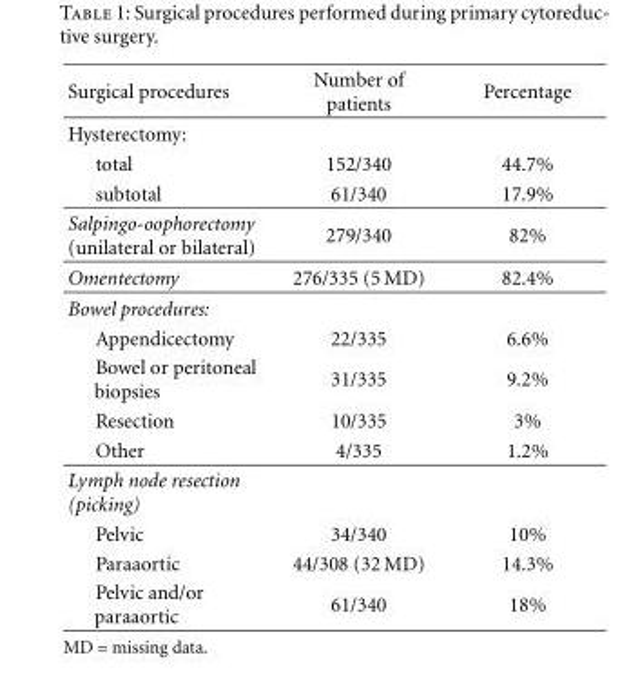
<table><thead><tr><td>Surgical procedures</td><td>Number of patients</td><td>Percentage</td></tr></thead><tbody><tr><td colspan="3">Hysterectomy:</td></tr><tr><td>total</td><td>152/340</td><td>44.7%</td></tr><tr><td>subtotal</td><td>61/340</td><td>17.9%</td></tr><tr><td>Salpingo-oophorectomy (unilateral or bilateral)</td><td>279/340</td><td>82%</td></tr><tr><td>Omentectomy</td><td>276/335 (5 MD)</td><td>82.4%</td></tr><tr><td colspan="3">Bowel procedures:</td></tr><tr><td>Appendicectomy</td><td>22/335</td><td>6.6%</td></tr><tr><td>Bowel or peritoneal biopsies</td><td>31/335</td><td>9.2%</td></tr><tr><td>Resection</td><td>10/335</td><td>3%</td></tr><tr><td>Other</td><td>4/335</td><td>1.2%</td></tr><tr><td colspan="3">Lymph node resection (picking)</td></tr><tr><td>Pelvic</td><td>34/340</td><td>10%</td></tr><tr><td>Paraaortic</td><td>44/308 (32 MD)</td><td>14.3%</td></tr><tr><td>Pelvic and/or paraaortic</td><td>61/340</td><td>18%</td></tr></tbody></table>